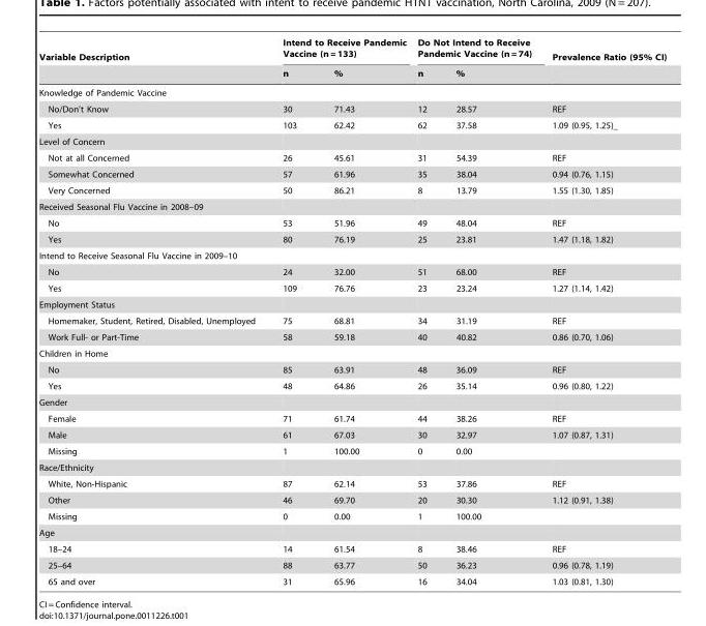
<table><thead><tr><td rowspan="2">Variable Description</td><td colspan="2">Intend to Receive Pandemic Vaccine (n = 133)</td><td colspan="2">Do Not Intend to Receive Pandemic Vaccine (n = 74)</td><td rowspan="2">Prevalence Ratio (95% CI)</td></tr><tr><td>n</td><td>%</td><td>n</td><td>%</td></tr></thead><tbody><tr><td colspan="6">Knowledge of Pandemic Vaccine</td></tr><tr><td>No/Don’t Know</td><td>30</td><td>71.43</td><td>12</td><td>28.57</td><td>REF</td></tr><tr><td>Yes</td><td>103</td><td>62.42</td><td>62</td><td>37.58</td><td>1.09 (0.95, 1.25)_</td></tr><tr><td colspan="6">Level of Concern</td></tr><tr><td>Not at all Concerned</td><td>26</td><td>45.61</td><td>31</td><td>54.39</td><td>REF</td></tr><tr><td>Somewhat Concerned</td><td>57</td><td>61.96</td><td>35</td><td>38.04</td><td>0.94 (0.76, 1.15)</td></tr><tr><td>Very Concerned</td><td>50</td><td>86.21</td><td>8</td><td>13.79</td><td>1.55 (1.30, 1.85)</td></tr><tr><td colspan="6">Received Seasonal Flu Vaccine in 2008–09</td></tr><tr><td>No</td><td>53</td><td>51.96</td><td>49</td><td>48.04</td><td>REF</td></tr><tr><td>Yes</td><td>80</td><td>76.19</td><td>25</td><td>23.81</td><td>1.47 (1.18, 1.82)</td></tr><tr><td colspan="6">Intend to Receive Seasonal Flu Vaccine in 2009–10</td></tr><tr><td>No</td><td>24</td><td>32.00</td><td>51</td><td>68.00</td><td>REF</td></tr><tr><td>Yes</td><td>109</td><td>76.76</td><td>23</td><td>23.24</td><td>1.27 (1.14, 1.42)</td></tr><tr><td colspan="6">Employment Status</td></tr><tr><td>Homemaker, Student, Retired, Disabled, Unemployed</td><td>75</td><td>68.81</td><td>34</td><td>31.19</td><td>REF</td></tr><tr><td>Work Full- or Part-Time</td><td>58</td><td>59.18</td><td>40</td><td>40.82</td><td>0.86 (0.70, 1.06)</td></tr><tr><td colspan="6">Children in Home</td></tr><tr><td>No</td><td>85</td><td>63.91</td><td>48</td><td>36.09</td><td>REF</td></tr><tr><td>Yes</td><td>48</td><td>64.86</td><td>26</td><td>35.14</td><td>0.96 (0.80, 1.22)</td></tr><tr><td colspan="6">Gender</td></tr><tr><td>Female</td><td>71</td><td>61.74</td><td>44</td><td>38.26</td><td>REF</td></tr><tr><td>Male</td><td>61</td><td>67.03</td><td>30</td><td>32.97</td><td>1.07 (0.87, 1.31)</td></tr><tr><td>Missing</td><td>1</td><td>100.00</td><td>0</td><td>0.00</td><td></td></tr><tr><td colspan="6">Race/Ethnicity</td></tr><tr><td>White, Non-Hispanic</td><td>87</td><td>62.14</td><td>53</td><td>37.86</td><td>REF</td></tr><tr><td>Other</td><td>46</td><td>69.70</td><td>20</td><td>30.30</td><td>1.12 (0.91, 1.38)</td></tr><tr><td>Missing</td><td>0</td><td>0.00</td><td>1</td><td>100.00</td><td></td></tr><tr><td colspan="6">Age</td></tr><tr><td>18–24</td><td>14</td><td>61.54</td><td>8</td><td>38.46</td><td>REF</td></tr><tr><td>25–64</td><td>88</td><td>63.77</td><td>50</td><td>36.23</td><td>0.96 (0.78, 1.19)</td></tr><tr><td>65 and over</td><td>31</td><td>65.96</td><td>16</td><td>34.04</td><td>1.03 (0.81, 1.30)</td></tr></tbody></table>